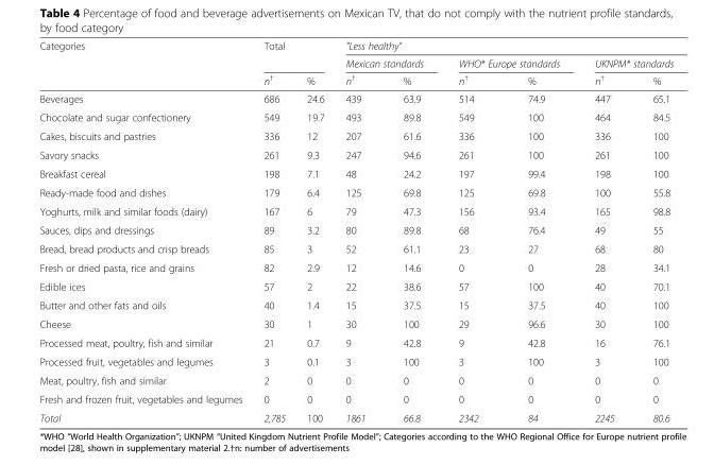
<table><thead><tr><td rowspan="3">Categories</td><td rowspan="2" colspan="2">Total</td><td colspan="6">&quot;Less healthy&quot;</td></tr><tr><td colspan="2">Mexican standards</td><td colspan="2">WHO* Europe standards</td><td colspan="2">UKNPM* standards</td></tr><tr><td>n<sup>†</sup></td><td>%</td><td>n<sup>†</sup></td><td>%</td><td>n<sup>†</sup></td><td>%</td><td>n<sup>†</sup></td><td>%</td></tr></thead><tbody><tr><td>Beverages</td><td>686</td><td>24.6</td><td>439</td><td>63.9</td><td>514</td><td>74.9</td><td>447</td><td>65.1</td></tr><tr><td>Chocolate and sugar confectionery</td><td>549</td><td>19.7</td><td>493</td><td>89.8</td><td>549</td><td>100</td><td>464</td><td>84.5</td></tr><tr><td>Cakes, biscuits and pastries</td><td>336</td><td>12</td><td>207</td><td>61.6</td><td>336</td><td>100</td><td>336</td><td>100</td></tr><tr><td>Savory snacks</td><td>261</td><td>9.3</td><td>247</td><td>94.6</td><td>261</td><td>100</td><td>261</td><td>100</td></tr><tr><td>Breakfast cereal</td><td>198</td><td>7.1</td><td>48</td><td>24.2</td><td>197</td><td>99.4</td><td>198</td><td>100</td></tr><tr><td>Ready-made food and dishes</td><td>179</td><td>6.4</td><td>125</td><td>69.8</td><td>125</td><td>69.8</td><td>100</td><td>55.8</td></tr><tr><td>Yoghurts, milk and similar foods (dairy)</td><td>167</td><td>6</td><td>79</td><td>47.3</td><td>156</td><td>93.4</td><td>165</td><td>98.8</td></tr><tr><td>Sauces, dips and dressings</td><td>89</td><td>3.2</td><td>80</td><td>89.8</td><td>68</td><td>76.4</td><td>49</td><td>55</td></tr><tr><td>Bread, bread products and crisp breads</td><td>85</td><td>3</td><td>52</td><td>61.1</td><td>23</td><td>27</td><td>68</td><td>80</td></tr><tr><td>Fresh or dried pasta, rice and grains</td><td>82</td><td>2.9</td><td>12</td><td>14.6</td><td>0</td><td>0</td><td>28</td><td>34.1</td></tr><tr><td>Edible ices</td><td>57</td><td>2</td><td>22</td><td>38.6</td><td>57</td><td>100</td><td>40</td><td>70.1</td></tr><tr><td>Butter and other fats and oils</td><td>40</td><td>1.4</td><td>15</td><td>37.5</td><td>15</td><td>37.5</td><td>40</td><td>100</td></tr><tr><td>Cheese</td><td>30</td><td>1</td><td>30</td><td>100</td><td>29</td><td>96.6</td><td>30</td><td>100</td></tr><tr><td>Processed meat, poultry, fish and similar</td><td>21</td><td>0.7</td><td>9</td><td>42.8</td><td>9</td><td>42.8</td><td>16</td><td>76.1</td></tr><tr><td>Processed fruit, vegetables and legumes</td><td>3</td><td>0.1</td><td>3</td><td>100</td><td>3</td><td>100</td><td>3</td><td>100</td></tr><tr><td>Meat, poultry, fish and similar</td><td>2</td><td>0</td><td>0</td><td>0</td><td>0</td><td>0</td><td>0</td><td>0</td></tr><tr><td>Fresh and frozen fruit, vegetables and legumes</td><td>0</td><td>0</td><td>0</td><td>0</td><td>0</td><td>0</td><td>0</td><td>0</td></tr><tr><td>Total</td><td>2,785</td><td>100</td><td>1861</td><td>66.8</td><td>2342</td><td>84</td><td>2245</td><td>80.6</td></tr></tbody></table>